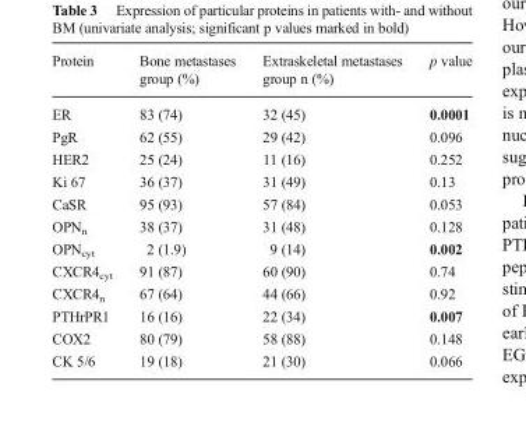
<table><thead><tr><td>Protein</td><td>Bone metastases group (%)</td><td>Extraskeletal metastases group n (%)</td><td>p value</td></tr></thead><tbody><tr><td>ER</td><td>83 (74)</td><td>32 (45)</td><td>0.0001</td></tr><tr><td>PgR</td><td>62 (55)</td><td>29 (42)</td><td>0.096</td></tr><tr><td>HER2</td><td>25 (24)</td><td>11 (16)</td><td>0.252</td></tr><tr><td>Ki 67</td><td>36 (37)</td><td>31 (49)</td><td>0.13</td></tr><tr><td>CaSR</td><td>95 (93)</td><td>57 (84)</td><td>0.053</td></tr><tr><td>OPN<sub>n</sub></td><td>38 (37)</td><td>31 (48)</td><td>0.128</td></tr><tr><td>OPN<sub>cyt</sub></td><td>2 (1.9)</td><td>9 (14)</td><td>0.002</td></tr><tr><td>CXCR4<sub>cyt</sub></td><td>91 (87)</td><td>60 (90)</td><td>0.74</td></tr><tr><td>CXCR4<sub>n</sub></td><td>67 (64)</td><td>44 (66)</td><td>0.92</td></tr><tr><td>PTHrPR1</td><td>16 (16)</td><td>22 (34)</td><td>0.007</td></tr><tr><td>COX2</td><td>80 (79)</td><td>58 (88)</td><td>0.148</td></tr><tr><td>CK 5/6</td><td>19 (18)</td><td>21 (30)</td><td>0.066</td></tr></tbody></table>